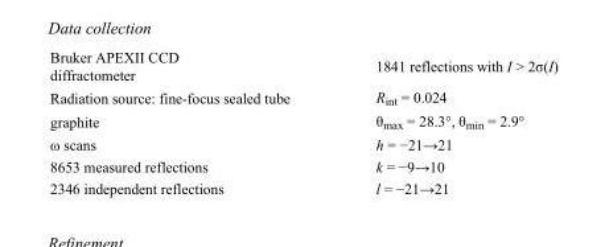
<table><tbody><tr><td>Bruker APEXII CCD diffractometer</td><td>1841 reflections with I &gt; 2σ(I)</td></tr><tr><td>Radiation source: fine-focus sealed tube</td><td>R<sub>int</sub> = 0.024</td></tr><tr><td>graphite</td><td>θ<sub>max</sub> = 28.3°, θ<sub>min</sub> = 2.9°</td></tr><tr><td>ω scans</td><td>h = −21→21</td></tr><tr><td>8653 measured reflections</td><td>k = −9→10</td></tr><tr><td>2346 independent reflections</td><td>l = −21→21</td></tr></tbody></table>